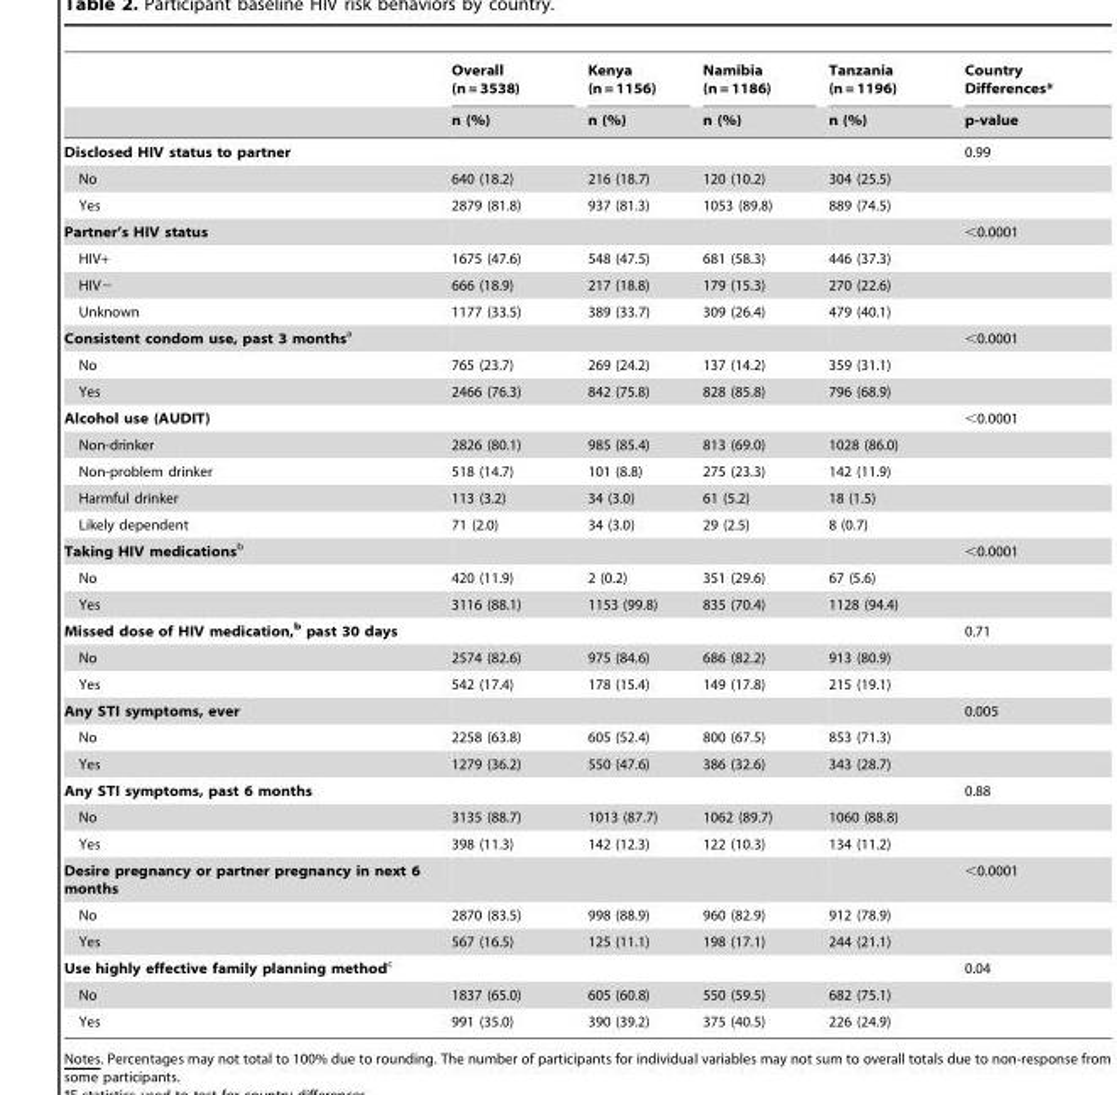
<table><thead><tr><td rowspan="2"></td><td rowspan="2">Overall (n = 3538) n (%)</td><td rowspan="2">Kenya (n = 1156) n (%)</td><td rowspan="2">Namibia (n = 1186) n (%)</td><td rowspan="2">Tanzania (n = 1196) n (%)</td><td rowspan="2">Country Differences* p-value</td></tr><tr></tr></thead><tbody><tr><td>Disclosed HIV status to partner</td><td></td><td></td><td></td><td></td><td>0.99</td></tr><tr><td>No</td><td>640 (18.2)</td><td>216 (18.7)</td><td>120 (10.2)</td><td>304 (25.5)</td><td></td></tr><tr><td>Yes</td><td>2879 (81.8)</td><td>937 (81.3)</td><td>1053 (89.8)</td><td>889 (74.5)</td><td></td></tr><tr><td>Partner’s HIV status</td><td></td><td></td><td></td><td></td><td>&lt;0.0001</td></tr><tr><td>HIV+</td><td>1675 (47.6)</td><td>548 (47.5)</td><td>681 (58.3)</td><td>446 (37.3)</td><td></td></tr><tr><td>HIV−</td><td>666 (18.9)</td><td>217 (18.8)</td><td>179 (15.3)</td><td>270 (22.6)</td><td></td></tr><tr><td>Unknown</td><td>1177 (33.5)</td><td>389 (33.7)</td><td>309 (26.4)</td><td>479 (40.1)</td><td></td></tr><tr><td>Consistent condom use, past 3 monthsa</td><td></td><td></td><td></td><td></td><td>&lt;0.0001</td></tr><tr><td>No</td><td>765 (23.7)</td><td>269 (24.2)</td><td>137 (14.2)</td><td>359 (31.1)</td><td></td></tr><tr><td>Yes</td><td>2466 (76.3)</td><td>842 (75.8)</td><td>828 (85.8)</td><td>796 (68.9)</td><td></td></tr><tr><td>Alcohol use (AUDIT)</td><td></td><td></td><td></td><td></td><td>&lt;0.0001</td></tr><tr><td>Non-drinker</td><td>2826 (80.1)</td><td>985 (85.4)</td><td>813 (69.0)</td><td>1028 (86.0)</td><td></td></tr><tr><td>Non-problem drinker</td><td>518 (14.7)</td><td>101 (8.8)</td><td>275 (23.3)</td><td>142 (11.9)</td><td></td></tr><tr><td>Harmful drinker</td><td>113 (3.2)</td><td>34 (3.0)</td><td>61 (5.2)</td><td>18 (1.5)</td><td></td></tr><tr><td>Likely dependent</td><td>71 (2.0)</td><td>34 (3.0)</td><td>29 (2.5)</td><td>8 (0.7)</td><td></td></tr><tr><td>Taking HIV medicationsb</td><td></td><td></td><td></td><td></td><td>&lt;0.0001</td></tr><tr><td>No</td><td>420 (11.9)</td><td>2 (0.2)</td><td>351 (29.6)</td><td>67 (5.6)</td><td></td></tr><tr><td>Yes</td><td>3116 (88.1)</td><td>1153 (99.8)</td><td>835 (70.4)</td><td>1128 (94.4)</td><td></td></tr><tr><td>Missed dose of HIV medication,b past 30 days</td><td></td><td></td><td></td><td></td><td>0.71</td></tr><tr><td>No</td><td>2574 (82.6)</td><td>975 (84.6)</td><td>686 (82.2)</td><td>913 (80.9)</td><td></td></tr><tr><td>Yes</td><td>542 (17.4)</td><td>178 (15.4)</td><td>149 (17.8)</td><td>215 (19.1)</td><td></td></tr><tr><td>Any STI symptoms, ever</td><td></td><td></td><td></td><td></td><td>0.005</td></tr><tr><td>No</td><td>2258 (63.8)</td><td>605 (52.4)</td><td>800 (67.5)</td><td>853 (71.3)</td><td></td></tr><tr><td>Yes</td><td>1279 (36.2)</td><td>550 (47.6)</td><td>386 (32.6)</td><td>343 (28.7)</td><td></td></tr><tr><td>Any STI symptoms, past 6 months</td><td></td><td></td><td></td><td></td><td>0.88</td></tr><tr><td>No</td><td>3135 (88.7)</td><td>1013 (87.7)</td><td>1062 (89.7)</td><td>1060 (88.8)</td><td></td></tr><tr><td>Yes</td><td>398 (11.3)</td><td>142 (12.3)</td><td>122 (10.3)</td><td>134 (11.2)</td><td></td></tr><tr><td>Desire pregnancy or partner pregnancy in next 6 months</td><td></td><td></td><td></td><td></td><td>&lt;0.0001</td></tr><tr><td>No</td><td>2870 (83.5)</td><td>998 (88.9)</td><td>960 (82.9)</td><td>912 (78.9)</td><td></td></tr><tr><td>Yes</td><td>567 (16.5)</td><td>125 (11.1)</td><td>198 (17.1)</td><td>244 (21.1)</td><td></td></tr><tr><td>Use highly effective family planning methodc</td><td></td><td></td><td></td><td></td><td>0.04</td></tr><tr><td>No</td><td>1837 (65.0)</td><td>605 (60.8)</td><td>550 (59.5)</td><td>682 (75.1)</td><td></td></tr><tr><td>Yes</td><td>991 (35.0)</td><td>390 (39.2)</td><td>375 (40.5)</td><td>226 (24.9)</td><td></td></tr></tbody></table>